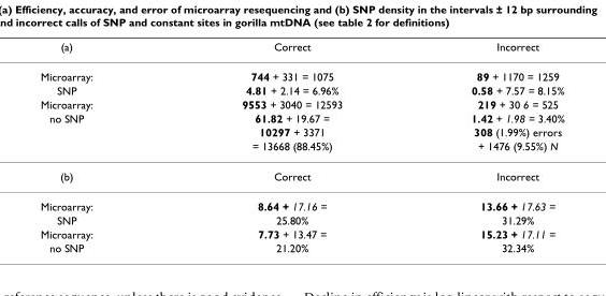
<table><thead><tr><td>(a)</td><td>Correct</td><td>Incorrect</td></tr></thead><tbody><tr><td>Microarray:</td><td>744 + 331 = 1075</td><td>89 + 1170 = 1259</td></tr><tr><td>SNP</td><td>4.81 + 2.14 = 6.96%</td><td>0.58 + 7.57 = 8.15%</td></tr><tr><td>Microarray:</td><td>9553 + 3040 = 12593</td><td>219 + 30 6 = 525</td></tr><tr><td rowspan="3">no SNP</td><td>61.82 + 19.67 =</td><td>1.42 + 1.98 = 3.40%</td></tr><tr><td>10297 + 3371</td><td>308 (1.99%) errors</td></tr><tr><td>= 13668 (88.45%)</td><td>+ 1476 (9.55%) N</td></tr><tr><td>(b)</td><td>Correct</td><td>Incorrect</td></tr><tr><td>Microarray:</td><td>8.64 + 17.16 =</td><td>13.66 + 17.63 =</td></tr><tr><td>SNP</td><td>25.80%</td><td>31.29%</td></tr><tr><td>Microarray:</td><td>7.73 + 13.47 =</td><td>15.23 + 17.11 =</td></tr><tr><td>no SNP</td><td>21.20%</td><td>32.34%</td></tr></tbody></table>